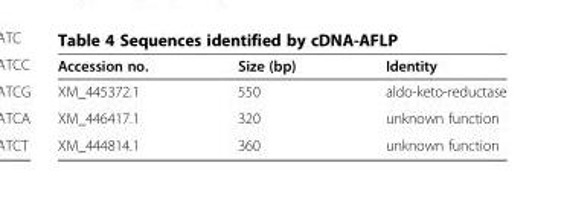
<table><thead><tr><td>Accession no.</td><td>Size (bp)</td><td>Identity</td></tr></thead><tbody><tr><td>XM_445372.1</td><td>550</td><td>aldo-keto-reductase</td></tr><tr><td>XM_446417.1</td><td>320</td><td>unknown function</td></tr><tr><td>XM_444814.1</td><td>360</td><td>unknown function</td></tr></tbody></table>